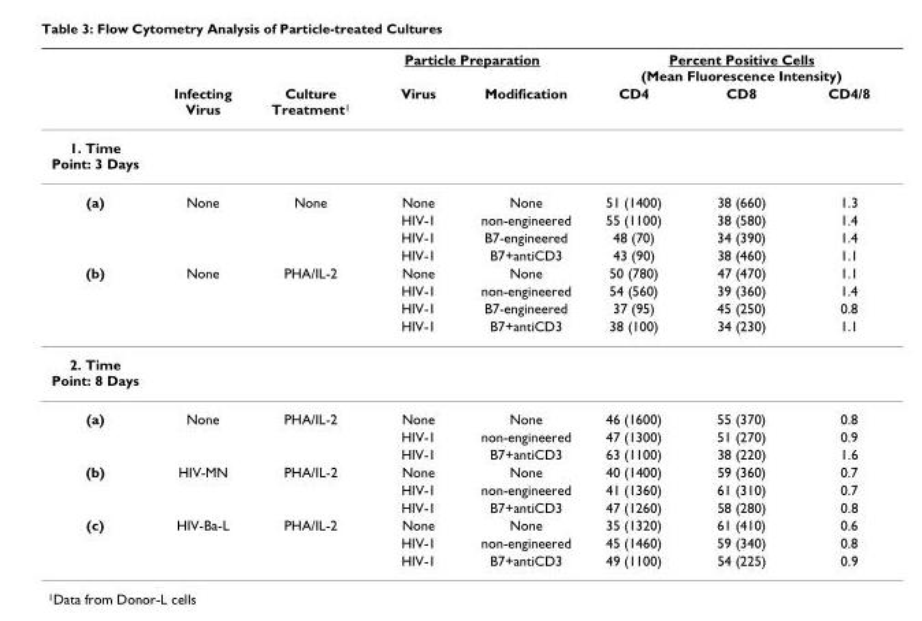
<table><thead><tr><td rowspan="2"></td><td rowspan="2">Infecting Virus</td><td rowspan="2">Culture Treatment<sup>1</sup></td><td colspan="2">Particle Preparation</td><td colspan="3">Percent Positive Cells (Mean Fluorescence Intensity)</td></tr><tr><td>Virus</td><td>Modification</td><td>CD4</td><td>CD8</td><td>CD4/8</td></tr></thead><tbody><tr><td colspan="8">1. Time Point: 3 Days</td></tr><tr><td rowspan="4">(a)</td><td>None</td><td>None</td><td>None</td><td>None</td><td>51 (1400)</td><td>38 (660)</td><td>1.3</td></tr><tr><td></td><td></td><td>HIV-1</td><td>non-engineered</td><td>55 (1100)</td><td>38 (580)</td><td>1.4</td></tr><tr><td></td><td></td><td>HIV-1</td><td>B7-engineered</td><td>48 (70)</td><td>34 (390)</td><td>1.4</td></tr><tr><td></td><td></td><td>HIV-1</td><td>B7+antiCD3</td><td>43 (90)</td><td>38 (460)</td><td>1.1</td></tr><tr><td rowspan="4">(b)</td><td>None</td><td>PHA/IL-2</td><td>None</td><td>None</td><td>50 (780)</td><td>47 (470)</td><td>1.1</td></tr><tr><td></td><td></td><td>HIV-1</td><td>non-engineered</td><td>54 (560)</td><td>39 (360)</td><td>1.4</td></tr><tr><td></td><td></td><td>HIV-1</td><td>B7-engineered</td><td>37 (95)</td><td>45 (250)</td><td>0.8</td></tr><tr><td></td><td></td><td>HIV-1</td><td>B7+antiCD3</td><td>38 (100)</td><td>34 (230)</td><td>1.1</td></tr><tr><td colspan="8">2. Time Point: 8 Days</td></tr><tr><td rowspan="3">(a)</td><td>None</td><td>PHA/IL-2</td><td>None</td><td>None</td><td>46 (1600)</td><td>55 (370)</td><td>0.8</td></tr><tr><td></td><td></td><td>HIV-1</td><td>non-engineered</td><td>47 (1300)</td><td>51 (270)</td><td>0.9</td></tr><tr><td></td><td></td><td>HIV-1</td><td>B7+antiCD3</td><td>63 (1100)</td><td>38 (220)</td><td>1.6</td></tr><tr><td rowspan="3">(b)</td><td>HIV-MN</td><td>PHA/IL-2</td><td>None</td><td>None</td><td>40 (1400)</td><td>59 (360)</td><td>0.7</td></tr><tr><td></td><td></td><td>HIV-1</td><td>non-engineered</td><td>41 (1360)</td><td>61 (310)</td><td>0.7</td></tr><tr><td></td><td></td><td>HIV-1</td><td>B7+antiCD3</td><td>47 (1260)</td><td>58 (280)</td><td>0.8</td></tr><tr><td rowspan="3">(c)</td><td>HIV-Ba-L</td><td>PHA/IL-2</td><td>None</td><td>None</td><td>35 (1320)</td><td>61 (410)</td><td>0.6</td></tr><tr><td></td><td></td><td>HIV-1</td><td>non-engineered</td><td>45 (1460)</td><td>59 (340)</td><td>0.8</td></tr><tr><td></td><td></td><td>HIV-1</td><td>B7+antiCD3</td><td>49 (1100)</td><td>54 (225)</td><td>0.9</td></tr></tbody></table>